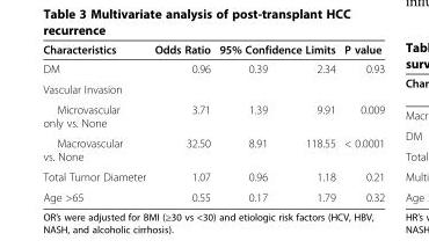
<table><thead><tr><td rowspan="2">Characteristics DM</td><td rowspan="2">Odds Ratio 0.96</td><td colspan="2">95% Confidence Limits</td><td rowspan="2">P value 0.93</td></tr><tr><td>0.39</td><td>2.34</td></tr></thead><tbody><tr><td colspan="5">Vascular Invasion</td></tr><tr><td>Microvascular only vs. None</td><td>3.71</td><td>1.39</td><td>9.91</td><td>0.009</td></tr><tr><td>Macrovascular vs. None</td><td>32.50</td><td>8.91</td><td>118.55</td><td>&lt; 0.0001</td></tr><tr><td>Total Tumor Diameter</td><td>1.07</td><td>0.96</td><td>1.18</td><td>0.21</td></tr><tr><td>Age &gt;65</td><td>0.55</td><td>0.17</td><td>1.79</td><td>0.32</td></tr></tbody></table>